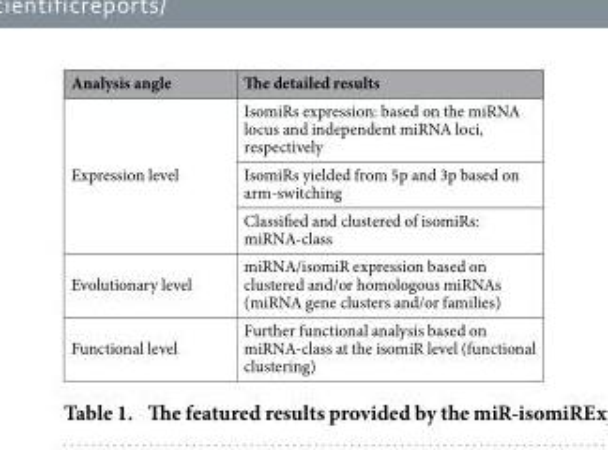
<table><thead><tr><td>Analysis angle</td><td>The detailed results</td></tr></thead><tbody><tr><td rowspan="3">Expression level</td><td>IsomiRs expression: based on the miRNA locus and independent miRNA loci, respectively</td></tr><tr><td>IsomiRs yielded from 5p and 3p based on arm-switching</td></tr><tr><td>Classified and clustered of isomiRs: miRNA-class</td></tr><tr><td>Evolutionary level</td><td>miRNA/isomiR expression based on clustered and/or homologous miRNAs (miRNA gene clusters and/or families)</td></tr><tr><td>Functional level</td><td>Further functional analysis based on miRNA-class at the isomiR level (functional clustering)</td></tr></tbody></table>